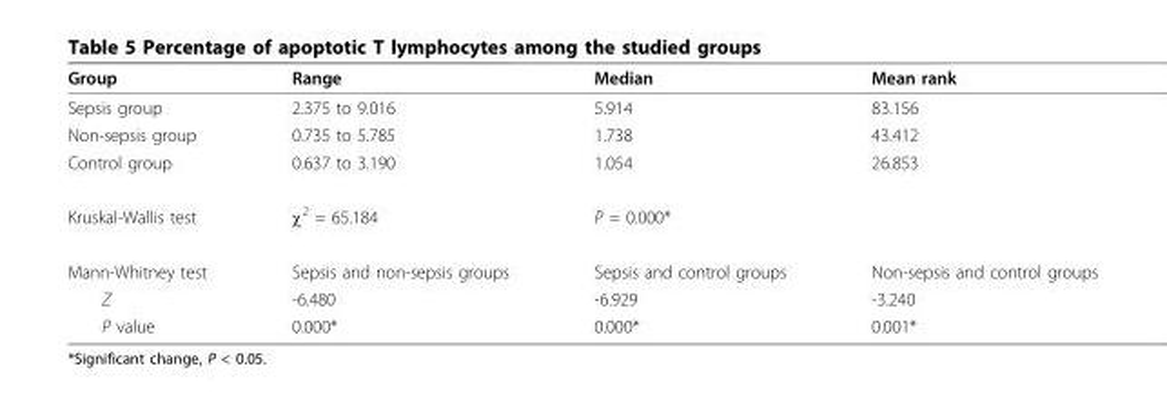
<table><thead><tr><td>Group</td><td>Range</td><td>Median</td><td>Mean rank</td></tr></thead><tbody><tr><td>Sepsis group</td><td>2.375 to 9.016</td><td>5.914</td><td>83.156</td></tr><tr><td>Non-sepsis group</td><td>0.735 to 5.785</td><td>1.738</td><td>43.412</td></tr><tr><td>Control group</td><td>0.637 to 3.190</td><td>1.054</td><td>26.853</td></tr><tr><td>Kruskal-Wallis test</td><td>χ<sup>2</sup> = 65.184</td><td>P = 0.000*</td><td></td></tr><tr><td>Mann-Whitney test</td><td>Sepsis and non-sepsis groups</td><td>Sepsis and control groups</td><td>Non-sepsis and control groups</td></tr><tr><td>Z</td><td>-6.480</td><td>-6.929</td><td>-3.240</td></tr><tr><td>P value</td><td>0.000*</td><td>0.000*</td><td>0.001*</td></tr></tbody></table>